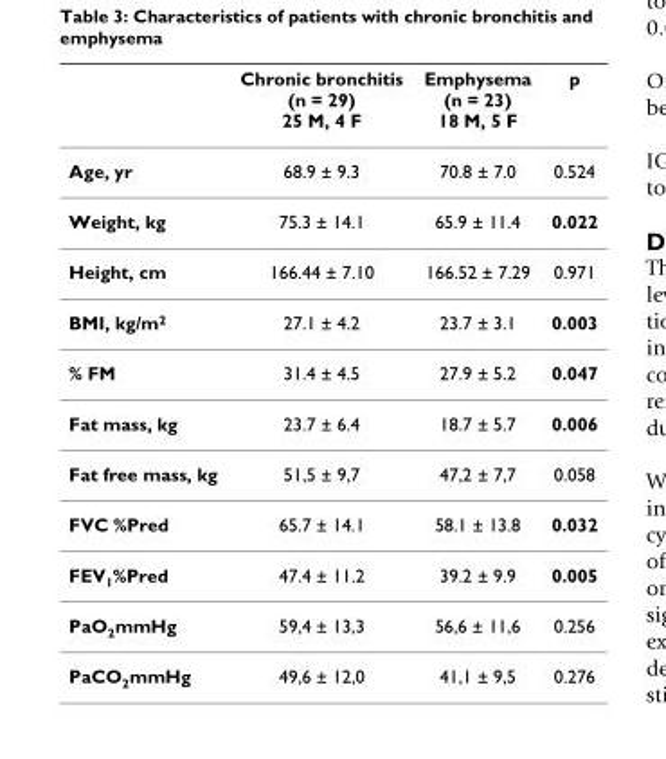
<table><thead><tr><td></td><td>Chronic bronchitis (n = 29) 25 M, 4 F</td><td>Emphysema (n = 23) 18 M, 5 F</td><td>p</td></tr></thead><tbody><tr><td>Age, yr</td><td>68.9 ± 9.3</td><td>70.8 ± 7.0</td><td>0.524</td></tr><tr><td>Weight, kg</td><td>75.3 ± 14.1</td><td>65.9 ± 11.4</td><td>0.022</td></tr><tr><td>Height, cm</td><td>166.44 ± 7.10</td><td>166.52 ± 7.29</td><td>0.971</td></tr><tr><td>BMI, kg/m<sup>2</sup></td><td>27.1 ± 4.2</td><td>23.7 ± 3.1</td><td>0.003</td></tr><tr><td>% FM</td><td>31.4 ± 4.5</td><td>27.9 ± 5.2</td><td>0.047</td></tr><tr><td>Fat mass, kg</td><td>23.7 ± 6.4</td><td>18.7 ± 5.7</td><td>0.006</td></tr><tr><td>Fat free mass, kg</td><td>51,5 ± 9,7</td><td>47,2 ± 7,7</td><td>0.058</td></tr><tr><td>FVC %Pred</td><td>65.7 ± 14.1</td><td>58.1 ± 13.8</td><td>0.032</td></tr><tr><td>FEV<sub>1</sub>%Pred</td><td>47.4 ± 11.2</td><td>39.2 ± 9.9</td><td>0.005</td></tr><tr><td>PaO<sub>2</sub>mmHg</td><td>59,4 ± 13,3</td><td>56,6 ± 11,6</td><td>0.256</td></tr><tr><td>PaCO<sub>2</sub>mmHg</td><td>49,6 ± 12,0</td><td>41,1 ± 9,5</td><td>0.276</td></tr></tbody></table>